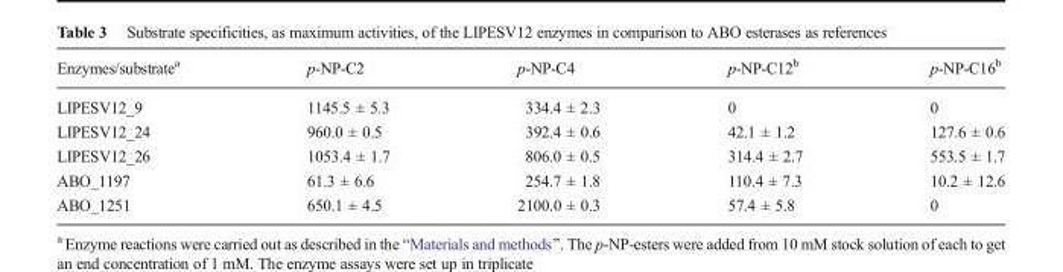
<table><thead><tr><td>Enzymes/substrate<sup>a</sup></td><td>p-NP-C2</td><td>p-NP-C4</td><td>p-NP-C12<sup>b</sup></td><td>p-NP-C16<sup>b</sup></td></tr></thead><tbody><tr><td>LIPESV12_9</td><td>1145.5 ± 5.3</td><td>334.4 ± 2.3</td><td>0</td><td>0</td></tr><tr><td>LIPESV12_24</td><td>960.0 ± 0.5</td><td>392.4 ± 0.6</td><td>42.1 ± 1.2</td><td>127.6 ± 0.6</td></tr><tr><td>LIPESV12_26</td><td>1053.4 ± 1.7</td><td>806.0 ± 0.5</td><td>314.4 ± 2.7</td><td>553.5 ± 1.7</td></tr><tr><td>ABO_1197</td><td>61.3 ± 6.6</td><td>254.7 ± 1.8</td><td>110.4 ± 7.3</td><td>10.2 ± 12.6</td></tr><tr><td>ABO_1251</td><td>650.1 ± 4.5</td><td>2100.0 ± 0.3</td><td>57.4 ± 5.8</td><td>0</td></tr></tbody></table>